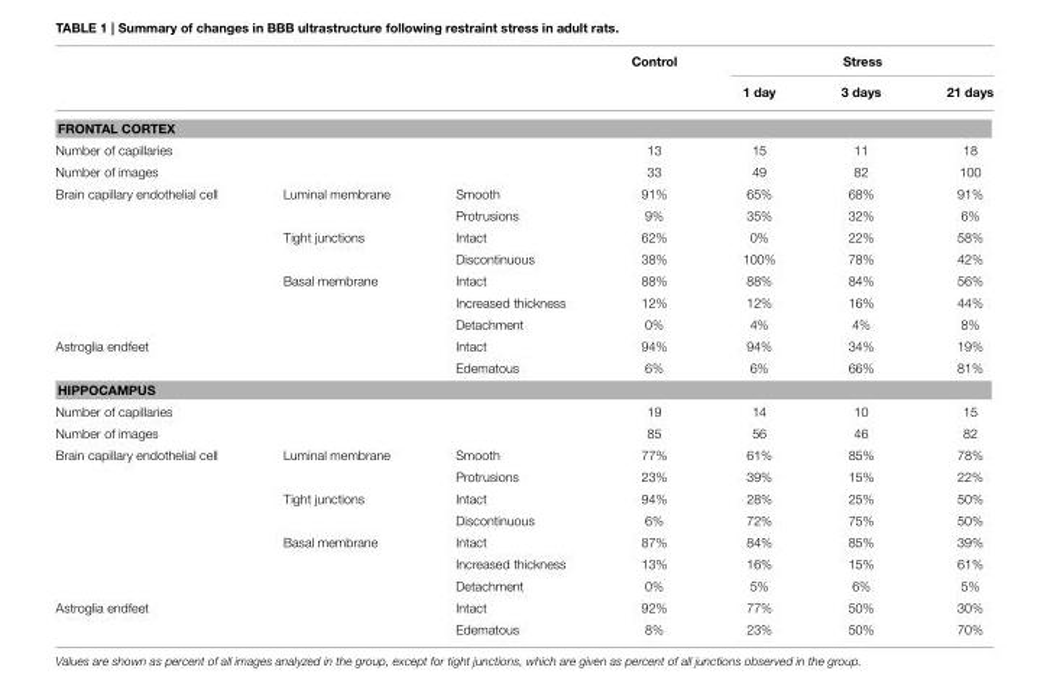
<table><thead><tr><td rowspan="2"></td><td rowspan="2"></td><td rowspan="2"></td><td rowspan="2">Control</td><td colspan="3">Stress</td></tr><tr><td>1 day</td><td>3 days</td><td>21 days</td></tr></thead><tbody><tr><td colspan="7">FRONTAL CORTEX</td></tr><tr><td colspan="3">Number of capillaries</td><td>13</td><td>15</td><td>11</td><td>18</td></tr><tr><td colspan="3">Number of images</td><td>33</td><td>49</td><td>82</td><td>100</td></tr><tr><td rowspan="7">Brain capillary endothelial cell</td><td>Luminal membrane</td><td>Smooth</td><td>91%</td><td>65%</td><td>68%</td><td>91%</td></tr><tr><td></td><td>Protrusions</td><td>9%</td><td>35%</td><td>32%</td><td>6%</td></tr><tr><td>Tight junctions</td><td>Intact</td><td>62%</td><td>0%</td><td>22%</td><td>58%</td></tr><tr><td></td><td>Discontinuous</td><td>38%</td><td>100%</td><td>78%</td><td>42%</td></tr><tr><td>Basal membrane</td><td>Intact</td><td>88%</td><td>88%</td><td>84%</td><td>56%</td></tr><tr><td></td><td>Increased thickness</td><td>12%</td><td>12%</td><td>16%</td><td>44%</td></tr><tr><td></td><td>Detachment</td><td>0%</td><td>4%</td><td>4%</td><td>8%</td></tr><tr><td rowspan="2" colspan="2">Astroglia endfeet</td><td>Intact</td><td>94%</td><td>94%</td><td>34%</td><td>19%</td></tr><tr><td>Edematous</td><td>6%</td><td>6%</td><td>66%</td><td>81%</td></tr><tr><td colspan="7">HIPPOCAMPUS</td></tr><tr><td colspan="3">Number of capillaries</td><td>19</td><td>14</td><td>10</td><td>15</td></tr><tr><td colspan="3">Number of images</td><td>85</td><td>56</td><td>46</td><td>82</td></tr><tr><td rowspan="7">Brain capillary endothelial cell</td><td>Luminal membrane</td><td>Smooth</td><td>77%</td><td>61%</td><td>85%</td><td>78%</td></tr><tr><td></td><td>Protrusions</td><td>23%</td><td>39%</td><td>15%</td><td>22%</td></tr><tr><td>Tight junctions</td><td>Intact</td><td>94%</td><td>28%</td><td>25%</td><td>50%</td></tr><tr><td></td><td>Discontinuous</td><td>6%</td><td>72%</td><td>75%</td><td>50%</td></tr><tr><td>Basal membrane</td><td>Intact</td><td>87%</td><td>84%</td><td>85%</td><td>39%</td></tr><tr><td></td><td>Increased thickness</td><td>13%</td><td>16%</td><td>15%</td><td>61%</td></tr><tr><td></td><td>Detachment</td><td>0%</td><td>5%</td><td>6%</td><td>5%</td></tr><tr><td rowspan="2" colspan="2">Astroglia endfeet</td><td>Intact</td><td>92%</td><td>77%</td><td>50%</td><td>30%</td></tr><tr><td>Edematous</td><td>8%</td><td>23%</td><td>50%</td><td>70%</td></tr></tbody></table>